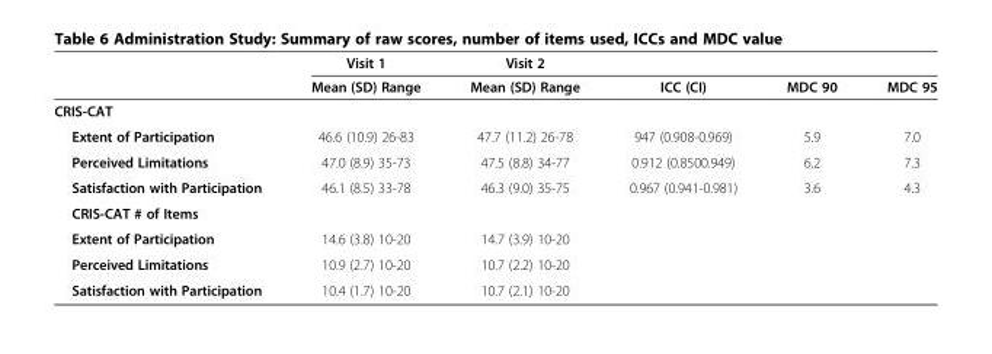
<table><thead><tr><td></td><td>Visit 1</td><td>Visit 2</td><td></td><td></td><td></td></tr></thead><tbody><tr><td></td><td>Mean (SD) Range</td><td>Mean (SD) Range</td><td>ICC (CI)</td><td>MDC 90</td><td>MDC 95</td></tr><tr><td colspan="6">CRIS-CAT</td></tr><tr><td>Extent of Participation</td><td>46.6 (10.9) 26-83</td><td>47.7 (11.2) 26-78</td><td>947 (0.908-0.969)</td><td>5.9</td><td>7.0</td></tr><tr><td>Perceived Limitations</td><td>47.0 (8.9) 35-73</td><td>47.5 (8.8) 34-77</td><td>0.912 (0.8500.949)</td><td>6.2</td><td>7.3</td></tr><tr><td>Satisfaction with Participation</td><td>46.1 (8.5) 33-78</td><td>46.3 (9.0) 35-75</td><td>0.967 (0.941-0.981)</td><td>3.6</td><td>4.3</td></tr><tr><td colspan="6">CRIS-CAT # of Items</td></tr><tr><td>Extent of Participation</td><td>14.6 (3.8) 10-20</td><td>14.7 (3.9) 10-20</td><td></td><td></td><td></td></tr><tr><td>Perceived Limitations</td><td>10.9 (2.7) 10-20</td><td>10.7 (2.2) 10-20</td><td></td><td></td><td></td></tr><tr><td>Satisfaction with Participation</td><td>10.4 (1.7) 10-20</td><td>10.7 (2.1) 10-20</td><td></td><td></td><td></td></tr></tbody></table>